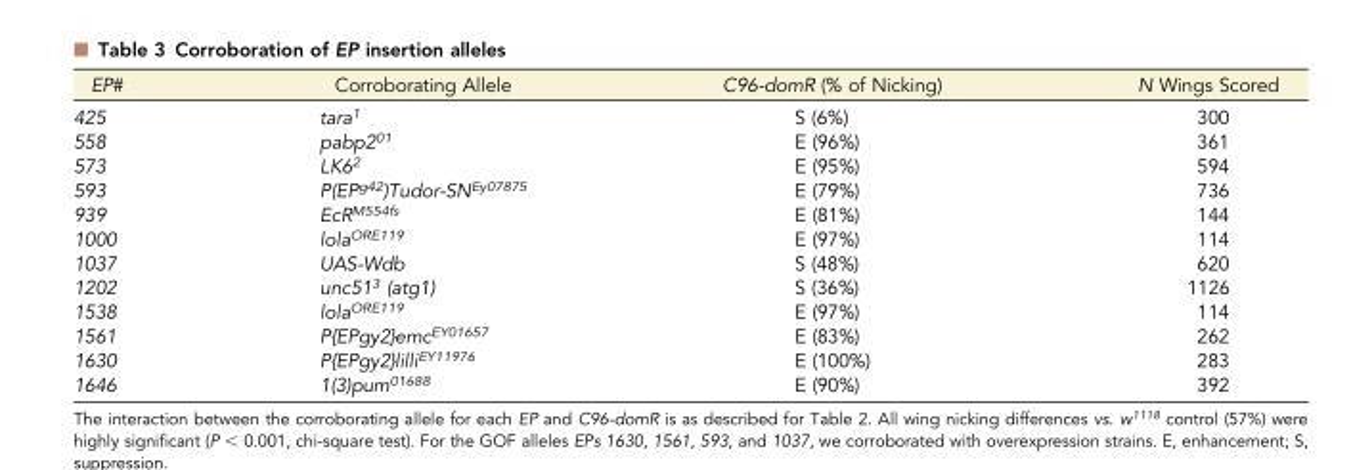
<table><thead><tr><td>EP#</td><td>Corroborating Allele</td><td>C96-domR (% of Nicking)</td><td>N Wings Scored</td></tr></thead><tbody><tr><td>425</td><td>tara<sup>1</sup></td><td>S (6%)</td><td>300</td></tr><tr><td>558</td><td>pabp2<sup>01</sup></td><td>E (96%)</td><td>361</td></tr><tr><td>573</td><td>LK6<sup>2</sup></td><td>E (95%)</td><td>594</td></tr><tr><td>593</td><td>P(EP<sup>g42</sup>)Tudor-SN<sup>Ey07875</sup></td><td>E (79%)</td><td>736</td></tr><tr><td>939</td><td>EcR<sup>M554fs</sup></td><td>E (81%)</td><td>144</td></tr><tr><td>1000</td><td>lola<sup>ORE119</sup></td><td>E (97%)</td><td>114</td></tr><tr><td>1037</td><td>UAS-Wdb</td><td>S (48%)</td><td>620</td></tr><tr><td>1202</td><td>unc51<sup>3</sup> (atg1)</td><td>S (36%)</td><td>1126</td></tr><tr><td>1538</td><td>lola<sup>ORE119</sup></td><td>E (97%)</td><td>114</td></tr><tr><td>1561</td><td>P{EPgy2}emc<sup>EY01657</sup></td><td>E (83%)</td><td>262</td></tr><tr><td>1630</td><td>P{EPgy2}lilli<sup>EY11976</sup></td><td>E (100%)</td><td>283</td></tr><tr><td>1646</td><td>1(3)pum<sup>01688</sup></td><td>E (90%)</td><td>392</td></tr></tbody></table>